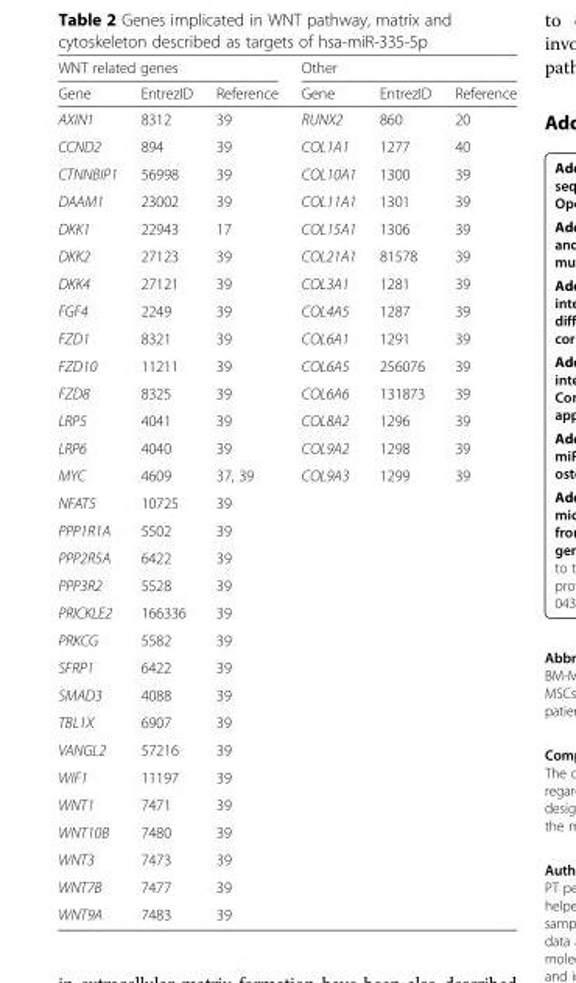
<table><thead><tr><td colspan="3">WNT related genes</td><td colspan="3">Other</td></tr><tr><td>Gene</td><td>EntrezID</td><td>Reference</td><td>Gene</td><td>EntrezID</td><td>Reference</td></tr></thead><tbody><tr><td>AXIN1</td><td>8312</td><td>39</td><td>RUNX2</td><td>860</td><td>20</td></tr><tr><td>CCND2</td><td>894</td><td>39</td><td>COL1A1</td><td>1277</td><td>40</td></tr><tr><td>CTNNBIP1</td><td>56998</td><td>39</td><td>COL10A1</td><td>1300</td><td>39</td></tr><tr><td>DAAM1</td><td>23002</td><td>39</td><td>COL11A1</td><td>1301</td><td>39</td></tr><tr><td>DKK1</td><td>22943</td><td>17</td><td>COL15A1</td><td>1306</td><td>39</td></tr><tr><td>DKK2</td><td>27123</td><td>39</td><td>COL21A1</td><td>81578</td><td>39</td></tr><tr><td>DKK4</td><td>27121</td><td>39</td><td>COL3A1</td><td>1281</td><td>39</td></tr><tr><td>FGF4</td><td>2249</td><td>39</td><td>COL4A5</td><td>1287</td><td>39</td></tr><tr><td>FZD1</td><td>8321</td><td>39</td><td>COL6A1</td><td>1291</td><td>39</td></tr><tr><td>FZD10</td><td>11211</td><td>39</td><td>COL6A5</td><td>256076</td><td>39</td></tr><tr><td>FZD8</td><td>8325</td><td>39</td><td>COL6A6</td><td>131873</td><td>39</td></tr><tr><td>LRP5</td><td>4041</td><td>39</td><td>COL8A2</td><td>1296</td><td>39</td></tr><tr><td>LRP6</td><td>4040</td><td>39</td><td>COL9A2</td><td>1298</td><td>39</td></tr><tr><td>MYC</td><td>4609</td><td>37, 39</td><td>COL9A3</td><td>1299</td><td>39</td></tr><tr><td>NFAT5</td><td>10725</td><td>39</td><td></td><td></td><td></td></tr><tr><td>PPP1R1A</td><td>5502</td><td>39</td><td></td><td></td><td></td></tr><tr><td>PPP2R5A</td><td>6422</td><td>39</td><td></td><td></td><td></td></tr><tr><td>PPP3R2</td><td>5528</td><td>39</td><td></td><td></td><td></td></tr><tr><td>PRICKLE2</td><td>166336</td><td>39</td><td></td><td></td><td></td></tr><tr><td>PRKCG</td><td>5582</td><td>39</td><td></td><td></td><td></td></tr><tr><td>SFRP1</td><td>6422</td><td>39</td><td></td><td></td><td></td></tr><tr><td>SMAD3</td><td>4088</td><td>39</td><td></td><td></td><td></td></tr><tr><td>TBL1X</td><td>6907</td><td>39</td><td></td><td></td><td></td></tr><tr><td>VANGL2</td><td>57216</td><td>39</td><td></td><td></td><td></td></tr><tr><td>WIF1</td><td>11197</td><td>39</td><td></td><td></td><td></td></tr><tr><td>WNT1</td><td>7471</td><td>39</td><td></td><td></td><td></td></tr><tr><td>WNT10B</td><td>7480</td><td>39</td><td></td><td></td><td></td></tr><tr><td>WNT3</td><td>7473</td><td>39</td><td></td><td></td><td></td></tr><tr><td>WNT7B</td><td>7477</td><td>39</td><td></td><td></td><td></td></tr><tr><td>WNT9A</td><td>7483</td><td>39</td><td></td><td></td><td></td></tr></tbody></table>